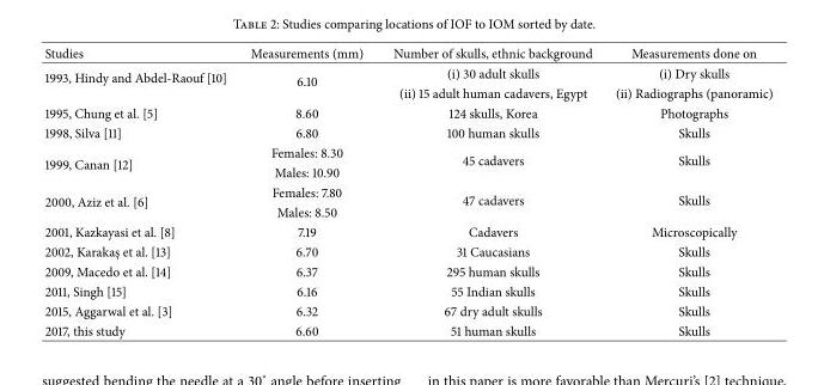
<table><thead><tr><td>Studies</td><td>Measurements (mm)</td><td>Number of skulls, ethnic background</td><td>Measurements done on</td></tr></thead><tbody><tr><td rowspan="2">1993, Hindy and Abdel-Raouf [10]</td><td rowspan="2">6.10</td><td>(i) 30 adult skulls</td><td>(i) Dry skulls</td></tr><tr><td>(ii) 15 adult human cadavers, Egypt</td><td>(ii) Radiographs (panoramic)</td></tr><tr><td>1995, Chung et al. [5]</td><td>8.60</td><td>124 skulls, Korea</td><td>Photographs</td></tr><tr><td>1998, Silva [11]</td><td>6.80</td><td>100 human skulls</td><td>Skulls</td></tr><tr><td rowspan="2">1999, Canan [12]</td><td>Females: 8.30</td><td rowspan="2">45 cadavers</td><td rowspan="2">Skulls</td></tr><tr><td>Males: 10.90</td></tr><tr><td rowspan="2">2000, Aziz et al. [6]</td><td>Females: 7.80</td><td rowspan="2">47 cadavers</td><td rowspan="2">Skulls</td></tr><tr><td>Males: 8.50</td></tr><tr><td>2001, Kazkayasi et al. [8]</td><td>7.19</td><td>Cadavers</td><td>Microscopically</td></tr><tr><td>2002, Karakas¸ et al. [13]</td><td>6.70</td><td>31 Caucasians</td><td>Skulls</td></tr><tr><td>2009, Macedo et al. [14]</td><td>6.37</td><td>295 human skulls</td><td>Skulls</td></tr><tr><td>2011, Singh [15]</td><td>6.16</td><td>55 Indian skulls</td><td>Skulls</td></tr><tr><td>2015, Aggarwal et al. [3]</td><td>6.32</td><td>67 dry adult skulls</td><td>Skulls</td></tr><tr><td>2017, this study</td><td>6.60</td><td>51 human skulls</td><td>Skulls</td></tr></tbody></table>